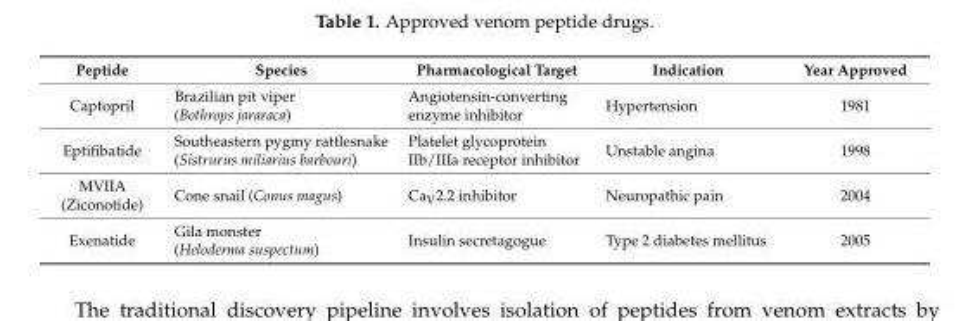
<table><thead><tr><td>Peptide</td><td>Species</td><td>Pharmacological Target</td><td>Indication</td><td>Year Approved</td></tr></thead><tbody><tr><td>Captopril</td><td>Brazilian pit viper (Bothrops jararaca)</td><td>Angiotensin-converting enzyme inhibitor</td><td>Hypertension</td><td>1981</td></tr><tr><td>Eptifibatide</td><td>Southeastern pygmy rattlesnake (Sistrurus miliarius barbouri)</td><td>Platelet glycoprotein IIb/IIIa receptor inhibitor</td><td>Unstable angina</td><td>1998</td></tr><tr><td>MVIIA (Ziconotide)</td><td>Cone snail (Conus magus)</td><td>Ca<sub>V</sub>2.2 inhibitor</td><td>Neuropathic pain</td><td>2004</td></tr><tr><td>Exenatide</td><td>Gila monster (Heloderma suspectum)</td><td>Insulin secretagogue</td><td>Type 2 diabetes mellitus</td><td>2005</td></tr></tbody></table>